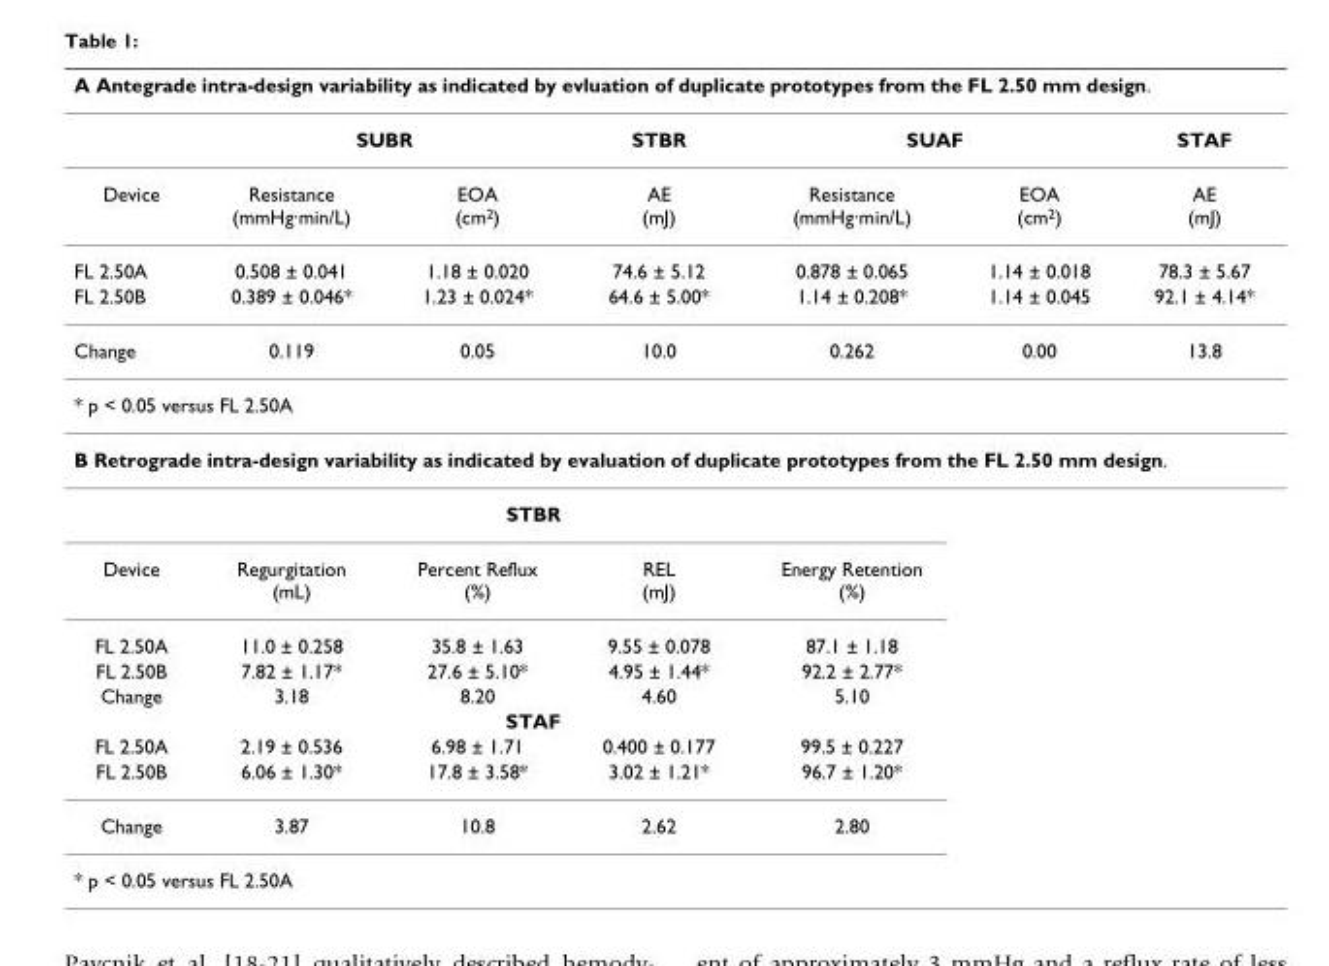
<table><thead><tr><td colspan="7">A Antegrade intra-design variability as indicated by evluation of duplicate prototypes from the FL 2.50 mm design.</td></tr><tr><td rowspan="2">Device</td><td colspan="2">SUBR</td><td rowspan="2">STBR AE (mJ)</td><td colspan="2">SUAF</td><td rowspan="2">STAF AE (mJ)</td></tr><tr><td>Resistance (mmHg·min/L)</td><td>EOA (cm2)</td><td>Resistance (mmHg·min/L)</td><td>EOA (cm2)</td></tr></thead><tbody><tr><td>FL 2.50A</td><td>0.508 ± 0.041</td><td>1.18 ± 0.020</td><td>74.6 ± 5.12</td><td>0.878 ± 0.065</td><td>1.14 ± 0.018</td><td>78.3 ± 5.67</td></tr><tr><td>FL 2.50B</td><td>0.389 ± 0.046*</td><td>1.23 ± 0.024*</td><td>64.6 ± 5.00*</td><td>1.14 ± 0.208*</td><td>1.14 ± 0.045</td><td>92.1 ± 4.14*</td></tr><tr><td>Change</td><td>0.119</td><td>0.05</td><td>10.0</td><td>0.262</td><td>0.00</td><td>13.8</td></tr><tr><td colspan="7">* p &lt; 0.05 versus FL 2.50A</td></tr><tr><td colspan="7">B Retrograde intra-design variability as indicated by evaluation of duplicate prototypes from the FL 2.50 mm design.</td></tr><tr><td></td><td colspan="2">STBR</td><td></td><td></td><td></td><td></td></tr><tr><td>Device</td><td>Regurgitation (mL)</td><td>Percent Reflux (%)</td><td>REL (mJ)</td><td>Energy Retention (%)</td><td></td><td></td></tr><tr><td>FL 2.50A</td><td>11.0 ± 0.258</td><td>35.8 ± 1.63</td><td>9.55 ± 0.078</td><td>87.1 ± 1.18</td><td></td><td></td></tr><tr><td>FL 2.50B</td><td>7.82 ± 1.17*</td><td>27.6 ± 5.10*</td><td>4.95 ± 1.44*</td><td>92.2 ± 2.77*</td><td></td><td></td></tr><tr><td rowspan="2">Change</td><td>3.18</td><td>8.20</td><td>4.60</td><td>5.10</td><td></td><td></td></tr><tr><td colspan="2">STAF</td><td></td><td></td><td></td><td></td></tr><tr><td>FL 2.50A</td><td>2.19 ± 0.536</td><td>6.98 ± 1.71</td><td>0.400 ± 0.177</td><td>99.5 ± 0.227</td><td></td><td></td></tr><tr><td>FL 2.50B</td><td>6.06 ± 1.30*</td><td>17.8 ± 3.58*</td><td>3.02 ± 1.21*</td><td>96.7 ± 1.20*</td><td></td><td></td></tr><tr><td>Change</td><td>3.87</td><td>10.8</td><td>2.62</td><td>2.80</td><td></td><td></td></tr><tr><td colspan="5">* p &lt; 0.05 versus FL 2.50A</td><td></td><td></td></tr></tbody></table>